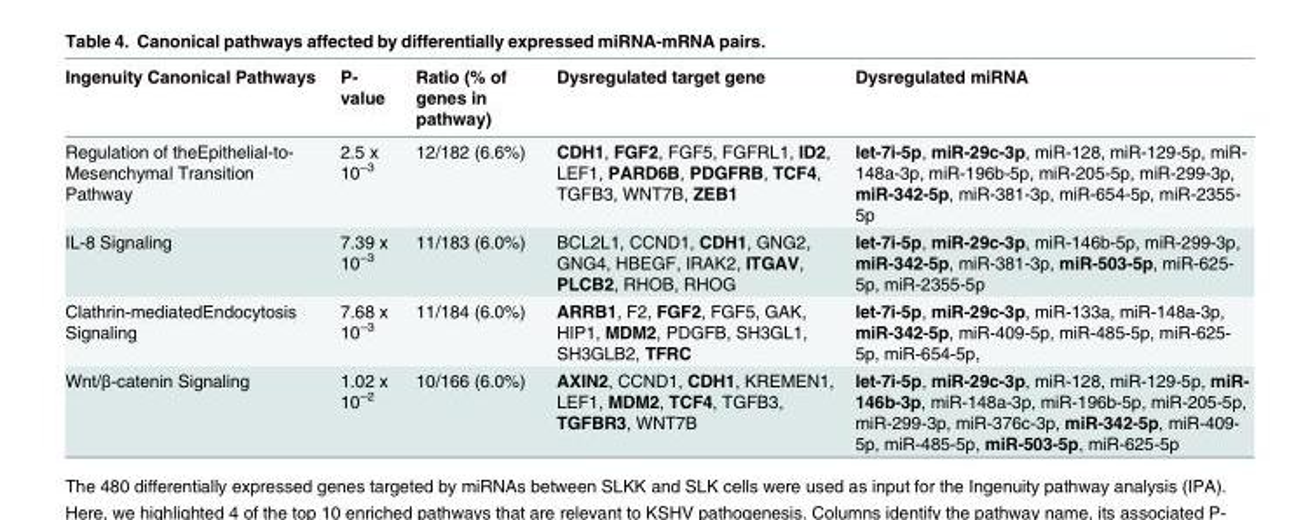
<table><thead><tr><td>Ingenuity Canonical Pathways</td><td>P- value</td><td>Ratio (% of genes in pathway)</td><td>Dysregulated target gene</td><td>Dysregulated miRNA</td></tr></thead><tbody><tr><td>Regulation of theEpithelial-to- Mesenchymal Transition Pathway</td><td>2.5 x 10<sup>–3</sup></td><td>12/182 (6.6%)</td><td>CDH1, FGF2, FGF5, FGFRL1, ID2, LEF1, PARD6B, PDGFRB, TCF4, TGFB3, WNT7B, ZEB1</td><td>let-7i-5p, miR-29c-3p, miR-128, miR-129-5p, miR- 148a-3p, miR-196b-5p, miR-205-5p, miR-299-3p, miR-342-5p, miR-381-3p, miR-654-5p, miR-2355- 5p</td></tr><tr><td>IL-8 Signaling</td><td>7.39 x 10<sup>–3</sup></td><td>11/183 (6.0%)</td><td>BCL2L1, CCND1, CDH1, GNG2, GNG4, HBEGF, IRAK2, ITGAV, PLCB2, RHOB, RHOG</td><td>let-7i-5p, miR-29c-3p, miR-146b-5p, miR-299-3p, miR-342-5p, miR-381-3p, miR-503-5p, miR-625- 5p, miR-2355-5p</td></tr><tr><td>Clathrin-mediatedEndocytosis Signaling</td><td>7.68 x 10<sup>–3</sup></td><td>11/184 (6.0%)</td><td>ARRB1, F2, FGF2, FGF5, GAK, HIP1, MDM2, PDGFB, SH3GL1, SH3GLB2, TFRC</td><td>let-7i-5p, miR-29c-3p, miR-133a, miR-148a-3p, miR-342-5p, miR-409-5p, miR-485-5p, miR-625- 5p, miR-654-5p,</td></tr><tr><td>Wnt/β-catenin Signaling</td><td>1.02 x 10<sup>–2</sup></td><td>10/166 (6.0%)</td><td>AXIN2, CCND1, CDH1, KREMEN1, LEF1, MDM2, TCF4, TGFB3, TGFBR3, WNT7B</td><td>let-7i-5p, miR-29c-3p, miR-128, miR-129-5p, miR- 146b-3p, miR-148a-3p, miR-196b-5p, miR-205-5p, miR-299-3p, miR-376c-3p, miR-342-5p, miR-409- 5p, miR-485-5p, miR-503-5p, miR-625-5p</td></tr></tbody></table>